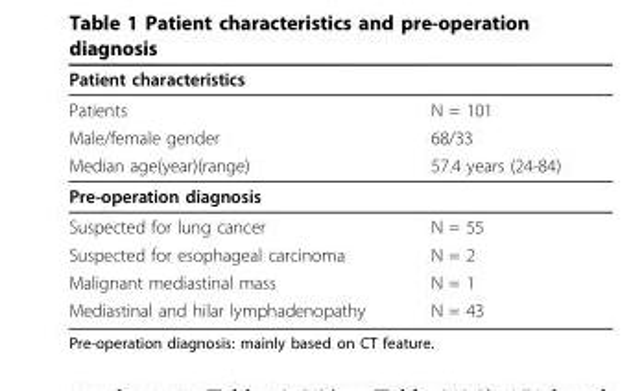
<table><thead><tr><td colspan="2">Patient characteristics</td></tr><tr><td>Patients</td><td>N = 101</td></tr></thead><tbody><tr><td>Male/female gender</td><td>68/33</td></tr><tr><td>Median age(year)(range)</td><td>57.4 years (24-84)</td></tr><tr><td colspan="2">Pre-operation diagnosis</td></tr><tr><td>Suspected for lung cancer</td><td>N = 55</td></tr><tr><td>Suspected for esophageal carcinoma</td><td>N = 2</td></tr><tr><td>Malignant mediastinal mass</td><td>N = 1</td></tr><tr><td>Mediastinal and hilar lymphadenopathy</td><td>N = 43</td></tr></tbody></table>